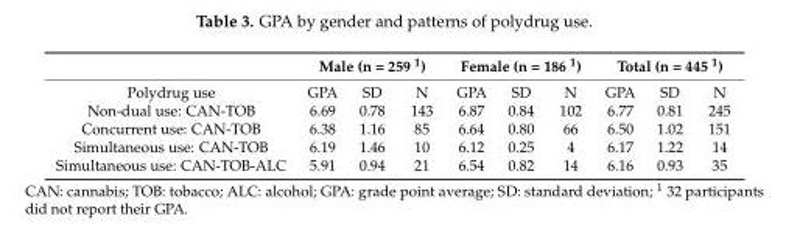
<table><thead><tr><td rowspan="2">Polydrug use</td><td colspan="3">Male (n = 259 <sup>1</sup>)</td><td colspan="3">Female (n = 186 <sup>1</sup>)</td><td colspan="3">Total (n = 445 <sup>1</sup>)</td></tr><tr><td>GPA</td><td>SD</td><td>N</td><td>GPA</td><td>SD</td><td>N</td><td>GPA</td><td>SD</td><td>N</td></tr></thead><tbody><tr><td>Non-dual use: CAN-TOB</td><td>6.69</td><td>0.78</td><td>143</td><td>6.87</td><td>0.84</td><td>102</td><td>6.77</td><td>0.81</td><td>245</td></tr><tr><td>Concurrent use: CAN-TOB</td><td>6.38</td><td>1.16</td><td>85</td><td>6.64</td><td>0.80</td><td>66</td><td>6.50</td><td>1.02</td><td>151</td></tr><tr><td>Simultaneous use: CAN-TOB</td><td>6.19</td><td>1.46</td><td>10</td><td>6.12</td><td>0.25</td><td>4</td><td>6.17</td><td>1.22</td><td>14</td></tr><tr><td>Simultaneous use: CAN-TOB-ALC</td><td>5.91</td><td>0.94</td><td>21</td><td>6.54</td><td>0.82</td><td>14</td><td>6.16</td><td>0.93</td><td>35</td></tr></tbody></table>